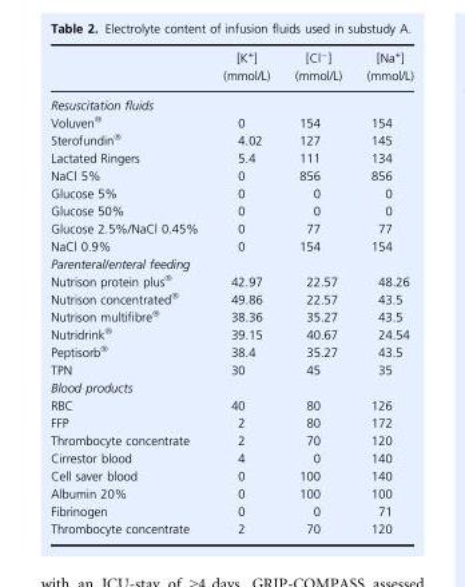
<table><thead><tr><td></td><td>[K<sup>+</sup>] (mmol/L)</td><td>[Cl<sup>−</sup>] (mmol/L)</td><td>[Na<sup>+</sup>] (mmol/L)</td></tr></thead><tbody><tr><td colspan="4">Resuscitation fluids</td></tr><tr><td>Voluven<sup>®</sup></td><td>0</td><td>154</td><td>154</td></tr><tr><td>Sterofundin<sup>®</sup></td><td>4.02</td><td>127</td><td>145</td></tr><tr><td>Lactated Ringers</td><td>5.4</td><td>111</td><td>134</td></tr><tr><td>NaCl 5%</td><td>0</td><td>856</td><td>856</td></tr><tr><td>Glucose 5%</td><td>0</td><td>0</td><td>0</td></tr><tr><td>Glucose 50%</td><td>0</td><td>0</td><td>0</td></tr><tr><td>Glucose 2.5%/NaCl 0.45%</td><td>0</td><td>77</td><td>77</td></tr><tr><td>NaCl 0.9%</td><td>0</td><td>154</td><td>154</td></tr><tr><td colspan="4">Parenteral/enteral feeding</td></tr><tr><td>Nutrison protein plus<sup>®</sup></td><td>42.97</td><td>22.57</td><td>48.26</td></tr><tr><td>Nutrison concentrated<sup>®</sup></td><td>49.86</td><td>22.57</td><td>43.5</td></tr><tr><td>Nutrison multifibre<sup>®</sup></td><td>38.36</td><td>35.27</td><td>43.5</td></tr><tr><td>Nutridrink<sup>®</sup></td><td>39.15</td><td>40.67</td><td>24.54</td></tr><tr><td>Peptisorb<sup>®</sup></td><td>38.4</td><td>35.27</td><td>43.5</td></tr><tr><td>TPN</td><td>30</td><td>45</td><td>35</td></tr><tr><td colspan="4">Blood products</td></tr><tr><td>RBC</td><td>40</td><td>80</td><td>126</td></tr><tr><td>FFP</td><td>2</td><td>80</td><td>172</td></tr><tr><td>Thrombocyte concentrate</td><td>2</td><td>70</td><td>120</td></tr><tr><td>Cirrestor blood</td><td>4</td><td>0</td><td>140</td></tr><tr><td>Cell saver blood</td><td>0</td><td>100</td><td>140</td></tr><tr><td>Albumin 20%</td><td>0</td><td>100</td><td>100</td></tr><tr><td>Fibrinogen</td><td>0</td><td>0</td><td>71</td></tr><tr><td>Thrombocyte concentrate</td><td>2</td><td>70</td><td>120</td></tr></tbody></table>